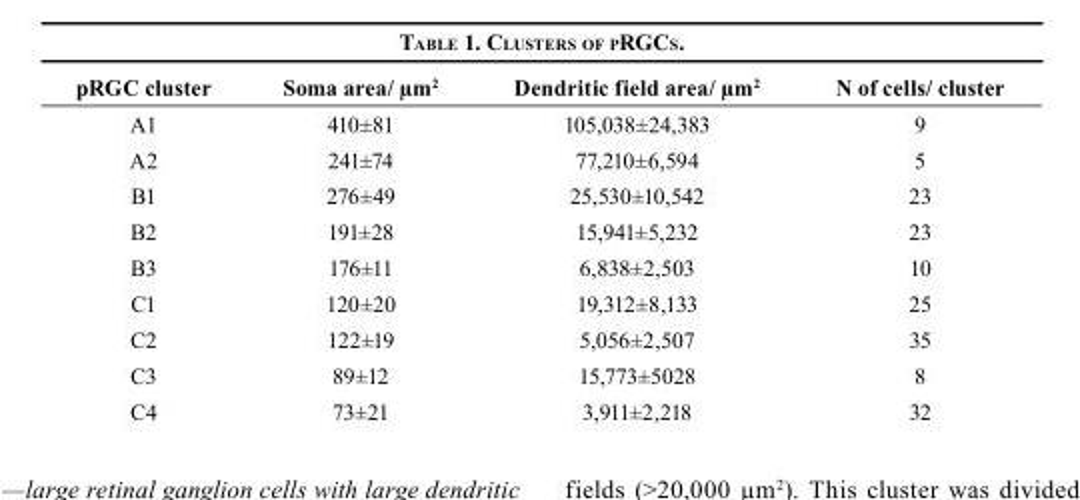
<table><thead><tr><td>pRGC cluster</td><td>Soma area/ µm<sup>2</sup></td><td>Dendritic field area/ µm<sup>2</sup></td><td>N of cells/ cluster</td></tr></thead><tbody><tr><td>A1</td><td>410±81</td><td>105,038±24,383</td><td>9</td></tr><tr><td>A2</td><td>241±74</td><td>77,210±6,594</td><td>5</td></tr><tr><td>B1</td><td>276±49</td><td>25,530±10,542</td><td>23</td></tr><tr><td>B2</td><td>191±28</td><td>15,941±5,232</td><td>23</td></tr><tr><td>B3</td><td>176±11</td><td>6,838±2,503</td><td>10</td></tr><tr><td>C1</td><td>120±20</td><td>19,312±8,133</td><td>25</td></tr><tr><td>C2</td><td>122±19</td><td>5,056±2,507</td><td>35</td></tr><tr><td>C3</td><td>89±12</td><td>15,773±5028</td><td>8</td></tr><tr><td>C4</td><td>73±21</td><td>3,911±2,218</td><td>32</td></tr></tbody></table>